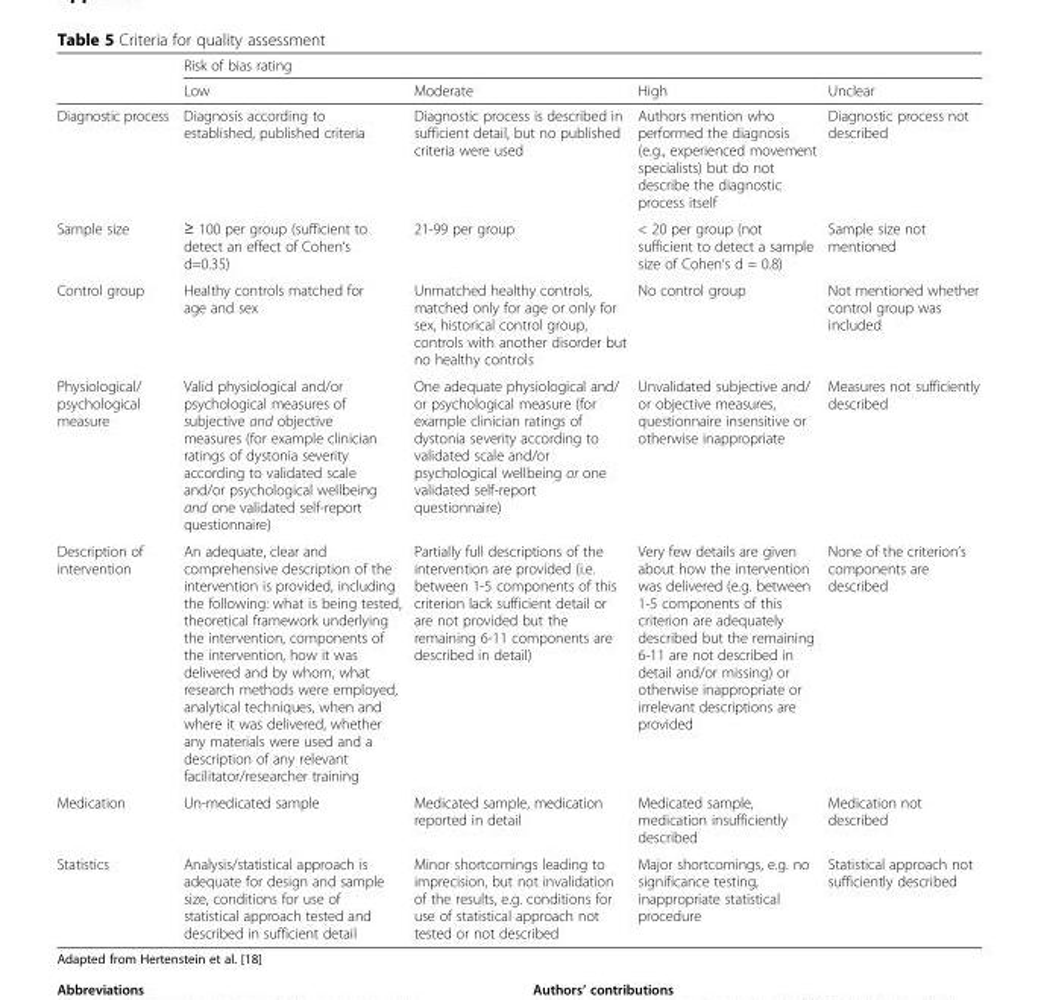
<table><thead><tr><td rowspan="2"></td><td colspan="4">Risk of bias rating</td></tr><tr><td>Low</td><td>Moderate</td><td>High</td><td>Unclear</td></tr></thead><tbody><tr><td>Diagnostic process</td><td>Diagnosis according to established, published criteria</td><td>Diagnostic process is described in sufficient detail, but no published criteria were used</td><td>Authors mention who performed the diagnosis (e.g., experienced movement specialists) but do not describe the diagnostic process itself</td><td>Diagnostic process not described</td></tr><tr><td>Sample size</td><td>≥ 100 per group (sufficient to detect an effect of Cohen‘s d=0.35)</td><td>21-99 per group</td><td>&lt; 20 per group (not sufficient to detect a sample size of Cohen‘s d = 0.8)</td><td>Sample size not mentioned</td></tr><tr><td>Control group</td><td>Healthy controls matched for age and sex</td><td>Unmatched healthy controls, matched only for age or only for sex, historical control group, controls with another disorder but no healthy controls</td><td>No control group</td><td>Not mentioned whether control group was included</td></tr><tr><td>Physiological/ psychological measure</td><td>Valid physiological and/or psychological measures of subjective and objective measures (for example clinician ratings of dystonia severity according to validated scale and/or psychological wellbeing and one validated self-report questionnaire)</td><td>One adequate physiological and/ or psychological measure (for example clinician ratings of dystonia severity according to validated scale and/or psychological wellbeing or one validated self-report questionnaire)</td><td>Unvalidated subjective and/ or objective measures, questionnaire insensitive or otherwise inappropriate</td><td>Measures not sufficiently described</td></tr><tr><td>Description of intervention</td><td>An adequate, clear and comprehensive description of the intervention is provided, including the following: what is being tested, theoretical framework underlying the intervention, components of the intervention, how it was delivered and by whom, what research methods were employed, analytical techniques, when and where it was delivered, whether any materials were used and a description of any relevant facilitator/researcher training</td><td>Partially full descriptions of the intervention are provided (i.e. between 1-5 components of this criterion lack sufficient detail or are not provided but the remaining 6-11 components are described in detail)</td><td>Very few details are given about how the intervention was delivered (e.g. between 1-5 components of this criterion are adequately described but the remaining 6-11 are not described in detail and/or missing) or otherwise inappropriate or irrelevant descriptions are provided</td><td>None of the criterion’s components are described</td></tr><tr><td>Medication</td><td>Un-medicated sample</td><td>Medicated sample, medication reported in detail</td><td>Medicated sample, medication insufficiently described</td><td>Medication not described</td></tr><tr><td>Statistics</td><td>Analysis/statistical approach is adequate for design and sample size, conditions for use of statistical approach tested and described in sufficient detail</td><td>Minor shortcomings leading to imprecision, but not invalidation of the results, e.g. conditions for use of statistical approach not tested or not described</td><td>Major shortcomings, e.g. no significance testing, inappropriate statistical procedure</td><td>Statistical approach not sufficiently described</td></tr></tbody></table>